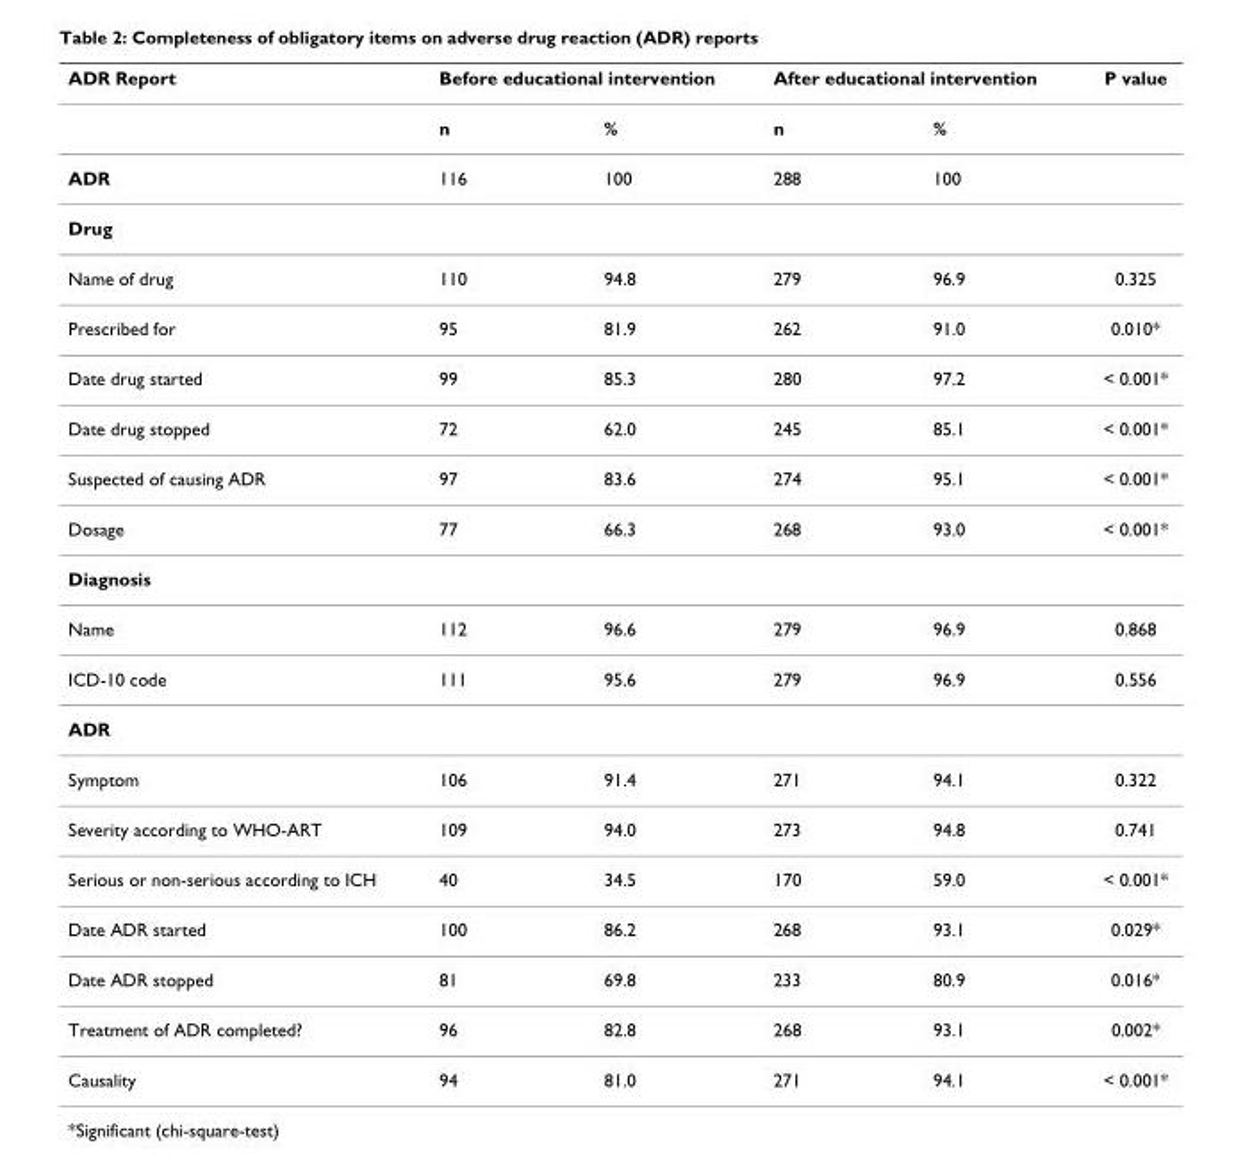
<table><thead><tr><td rowspan="2">ADR Report</td><td colspan="2">Before educational intervention</td><td colspan="2">After educational intervention</td><td rowspan="2">P value</td></tr><tr><td>n</td><td>%</td><td>n</td><td>%</td></tr></thead><tbody><tr><td>ADR</td><td>116</td><td>100</td><td>288</td><td>100</td><td></td></tr><tr><td colspan="6">Drug</td></tr><tr><td>Name of drug</td><td>110</td><td>94.8</td><td>279</td><td>96.9</td><td>0.325</td></tr><tr><td>Prescribed for</td><td>95</td><td>81.9</td><td>262</td><td>91.0</td><td>0.010*</td></tr><tr><td>Date drug started</td><td>99</td><td>85.3</td><td>280</td><td>97.2</td><td>&lt; 0.001*</td></tr><tr><td>Date drug stopped</td><td>72</td><td>62.0</td><td>245</td><td>85.1</td><td>&lt; 0.001*</td></tr><tr><td>Suspected of causing ADR</td><td>97</td><td>83.6</td><td>274</td><td>95.1</td><td>&lt; 0.001*</td></tr><tr><td>Dosage</td><td>77</td><td>66.3</td><td>268</td><td>93.0</td><td>&lt; 0.001*</td></tr><tr><td colspan="6">Diagnosis</td></tr><tr><td>Name</td><td>112</td><td>96.6</td><td>279</td><td>96.9</td><td>0.868</td></tr><tr><td>ICD-10 code</td><td>111</td><td>95.6</td><td>279</td><td>96.9</td><td>0.556</td></tr><tr><td colspan="6">ADR</td></tr><tr><td>Symptom</td><td>106</td><td>91.4</td><td>271</td><td>94.1</td><td>0.322</td></tr><tr><td>Severity according to WHO-ART</td><td>109</td><td>94.0</td><td>273</td><td>94.8</td><td>0.741</td></tr><tr><td>Serious or non-serious according to ICH</td><td>40</td><td>34.5</td><td>170</td><td>59.0</td><td>&lt; 0.001*</td></tr><tr><td>Date ADR started</td><td>100</td><td>86.2</td><td>268</td><td>93.1</td><td>0.029*</td></tr><tr><td>Date ADR stopped</td><td>81</td><td>69.8</td><td>233</td><td>80.9</td><td>0.016*</td></tr><tr><td>Treatment of ADR completed?</td><td>96</td><td>82.8</td><td>268</td><td>93.1</td><td>0.002*</td></tr><tr><td>Causality</td><td>94</td><td>81.0</td><td>271</td><td>94.1</td><td>&lt; 0.001*</td></tr></tbody></table>